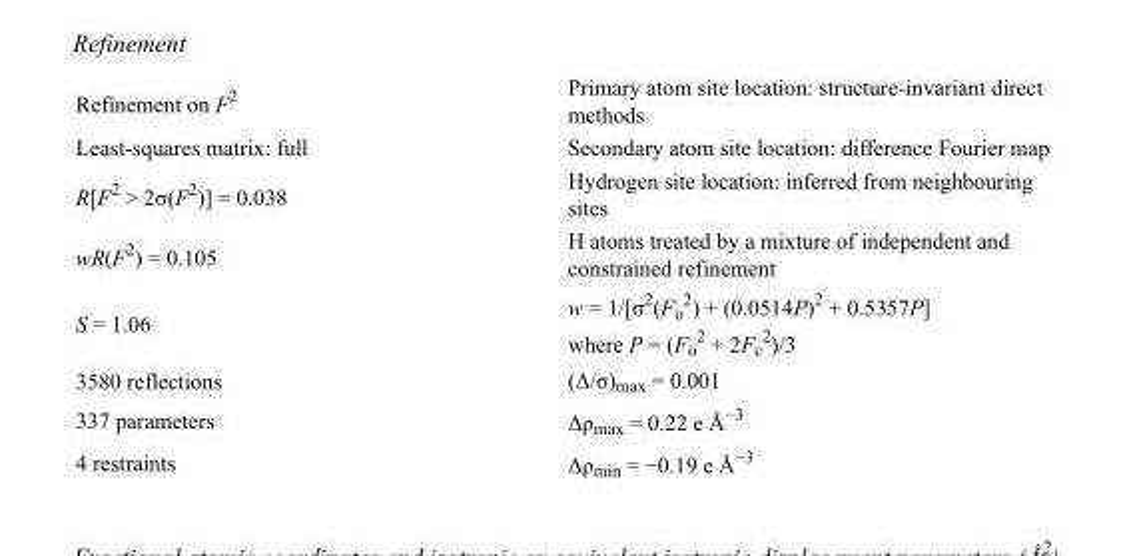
<table><tbody><tr><td>Refinement on F<sup>2</sup></td><td>Primary atom site location: structure-invariant direct methods</td></tr><tr><td>Least-squares matrix: full</td><td>Secondary atom site location: difference Fourier map</td></tr><tr><td>R[F<sup>2</sup> &gt; 2σ(F<sup>2</sup>)] = 0.038</td><td>Hydrogen site location: inferred from neighbouring sites</td></tr><tr><td>wR(F<sup>2</sup>) = 0.105</td><td>H atoms treated by a mixture of independent and constrained refinement</td></tr><tr><td>S = 1.06</td><td>w = 1/[σ<sup>2</sup>(F<sub>o</sub> <sup>2</sup>) + (0.0514P)<sup>2</sup> + 0.5357P] where P = (F<sub>o</sub> <sup>2</sup> + 2F<sub>c</sub> <sup>2</sup>)/3</td></tr><tr><td>3580 reflections</td><td>(Δ/σ)<sub>max</sub> = 0.001</td></tr><tr><td>337 parameters</td><td>Δρ<sub>max</sub> = 0.22 e Å<sup>−3</sup></td></tr><tr><td>4 restraints</td><td>Δρ<sub>min</sub> = −0.19 e Å<sup>−3</sup></td></tr></tbody></table>